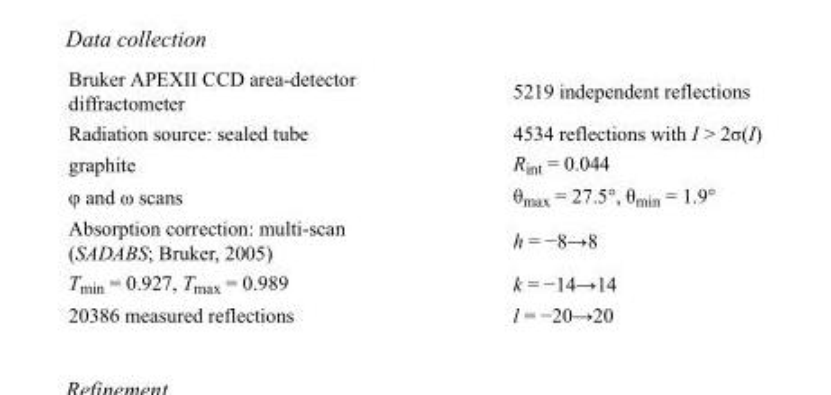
<table><tbody><tr><td>Bruker APEXII CCD area-detector diffractometer</td><td>5219 independent reflections</td></tr><tr><td>Radiation source: sealed tube</td><td>4534 reflections with I &gt; 2σ(I)</td></tr><tr><td>graphite</td><td>R<sub>int</sub> = 0.044</td></tr><tr><td>φ and ω scans</td><td>θ<sub>max</sub> = 27.5°, θ<sub>min</sub> = 1.9°</td></tr><tr><td>Absorption correction: multi-scan (SADABS; Bruker, 2005)</td><td>h = −8→8</td></tr><tr><td>T<sub>min</sub> = 0.927, T<sub>max</sub> = 0.989</td><td>k = −14→14</td></tr><tr><td>20386 measured reflections</td><td>l = −20→20</td></tr></tbody></table>